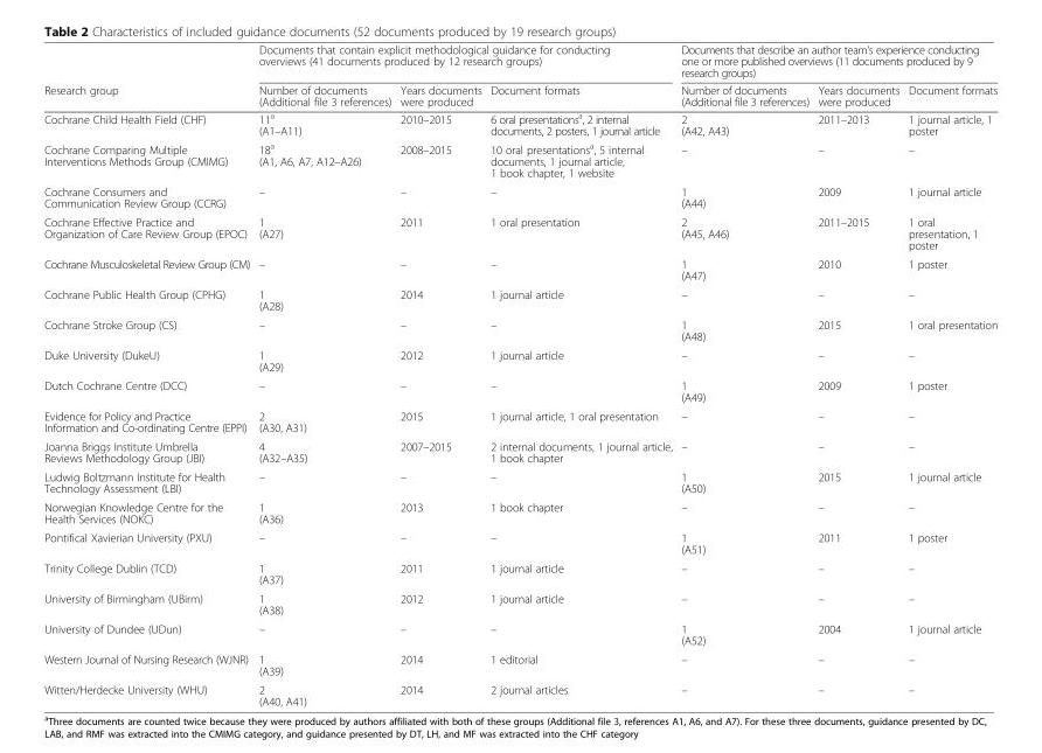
<table><thead><tr><td rowspan="2">Research group</td><td colspan="3">Documents that contain explicit methodological guidance for conducting overviews (41 documents produced by 12 research groups)</td><td colspan="3">Documents that describe an author team’s experience conducting one or more published overviews (11 documents produced by 9 research groups)</td></tr><tr><td>Number of documents (Additional file 3 references)</td><td>Years documents were produced</td><td>Document formats</td><td>Number of documents (Additional file 3 references)</td><td>Years documents were produced</td><td>Document formats</td></tr></thead><tbody><tr><td>Cochrane Child Health Field (CHF)</td><td>11<sup>a</sup> (A1–A11)</td><td>2010–2015</td><td>6 oral presentations<sup>a</sup>, 2 internal documents, 2 posters, 1 journal article</td><td>2 (A42, A43)</td><td>2011–2013</td><td>1 journal article, 1 poster</td></tr><tr><td>Cochrane Comparing Multiple Interventions Methods Group (CMIMG)</td><td>18<sup>a</sup> (A1, A6, A7, A12–A26)</td><td>2008–2015</td><td>10 oral presentations<sup>a</sup>, 5 internal documents, 1 journal article, 1 book chapter, 1 website</td><td>–</td><td>–</td><td>–</td></tr><tr><td>Cochrane Consumers and Communication Review Group (CCRG)</td><td>–</td><td>–</td><td>–</td><td>1 (A44)</td><td>2009</td><td>1 journal article</td></tr><tr><td>Cochrane Effective Practice and Organization of Care Review Group (EPOC)</td><td>1 (A27)</td><td>2011</td><td>1 oral presentation</td><td>2 (A45, A46)</td><td>2011–2015</td><td>1 oral presentation, 1 poster</td></tr><tr><td>Cochrane Musculoskeletal Review Group (CM)</td><td>–</td><td>–</td><td>–</td><td>1 (A47)</td><td>2010</td><td>1 poster</td></tr><tr><td>Cochrane Public Health Group (CPHG)</td><td>1 (A28)</td><td>2014</td><td>1 journal article</td><td>–</td><td>–</td><td>–</td></tr><tr><td>Cochrane Stroke Group (CS)</td><td>–</td><td>–</td><td>–</td><td>1 (A48)</td><td>2015</td><td>1 oral presentation</td></tr><tr><td>Duke University (DukeU)</td><td>1 (A29)</td><td>2012</td><td>1 journal article</td><td>–</td><td>–</td><td>–</td></tr><tr><td>Dutch Cochrane Centre (DCC)</td><td>–</td><td>–</td><td>–</td><td>1 (A49)</td><td>2009</td><td>1 poster</td></tr><tr><td>Evidence for Policy and Practice Information and Co-ordinating Centre (EPPI)</td><td>2 (A30, A31)</td><td>2015</td><td>1 journal article, 1 oral presentation</td><td>–</td><td>–</td><td>–</td></tr><tr><td>Joanna Briggs Institute Umbrella Reviews Methodology Group (JBI)</td><td>4 (A32–A35)</td><td>2007–2015</td><td>2 internal documents, 1 journal article, 1 book chapter</td><td>–</td><td>–</td><td>–</td></tr><tr><td>Ludwig Boltzmann Institute for Health Technology Assessment (LBI)</td><td>–</td><td>–</td><td>–</td><td>1 (A50)</td><td>2015</td><td>1 journal article</td></tr><tr><td>Norwegian Knowledge Centre for the Health Services (NOKC)</td><td>1 (A36)</td><td>2013</td><td>1 book chapter</td><td>–</td><td>–</td><td>–</td></tr><tr><td>Pontifical Xavierian University (PXU)</td><td>–</td><td>–</td><td>–</td><td>1 (A51)</td><td>2011</td><td>1 poster</td></tr><tr><td>Trinity College Dublin (TCD)</td><td>1 (A37)</td><td>2011</td><td>1 journal article</td><td>–</td><td>–</td><td>–</td></tr><tr><td>University of Birmingham (UBirm)</td><td>1 (A38)</td><td>2012</td><td>1 journal article</td><td>–</td><td>–</td><td>–</td></tr><tr><td>University of Dundee (UDun)</td><td>–</td><td>–</td><td>–</td><td>1 (A52)</td><td>2004</td><td>1 journal article</td></tr><tr><td>Western Journal of Nursing Research (WJNR)</td><td>1 (A39)</td><td>2014</td><td>1 editorial</td><td>–</td><td>–</td><td>–</td></tr><tr><td>Witten/Herdecke University (WHU)</td><td>2 (A40, A41)</td><td>2014</td><td>2 journal articles</td><td>–</td><td>–</td><td>–</td></tr></tbody></table>